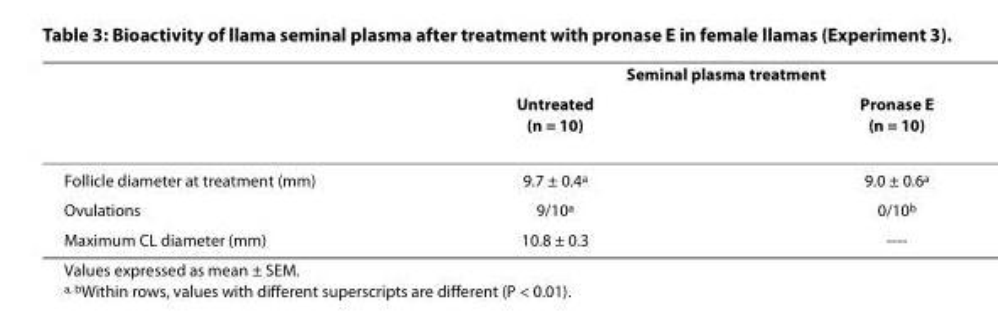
<table><thead><tr><td rowspan="2"></td><td colspan="2">Seminal plasma treatment</td></tr><tr><td>Untreated (n = 10)</td><td>Pronase E (n = 10)</td></tr></thead><tbody><tr><td>Follicle diameter at treatment (mm)</td><td>9.7 ± 0.4<sup>a</sup></td><td>9.0 ± 0.6<sup>a</sup></td></tr><tr><td>Ovulations</td><td>9/10<sup>a</sup></td><td>0/10<sup>b</sup></td></tr><tr><td>Maximum CL diameter (mm)</td><td>10.8 ± 0.3</td><td>----</td></tr></tbody></table>